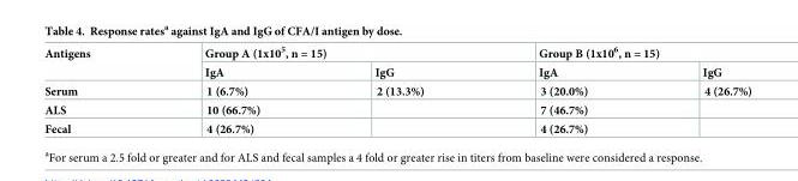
<table><thead><tr><td rowspan="2">Antigens</td><td colspan="2">Group A (1x10<sup>5</sup>, n = 15)</td><td colspan="2">Group B (1x10<sup>6</sup>, n = 15)</td></tr><tr><td>IgA</td><td>IgG</td><td>IgA</td><td>IgG</td></tr></thead><tbody><tr><td>Serum</td><td>1 (6.7%)</td><td>2 (13.3%)</td><td>3 (20.0%)</td><td>4 (26.7%)</td></tr><tr><td>ALS</td><td>10 (66.7%)</td><td></td><td>7 (46.7%)</td><td></td></tr><tr><td>Fecal</td><td>4 (26.7%)</td><td></td><td>4 (26.7%)</td><td></td></tr></tbody></table>